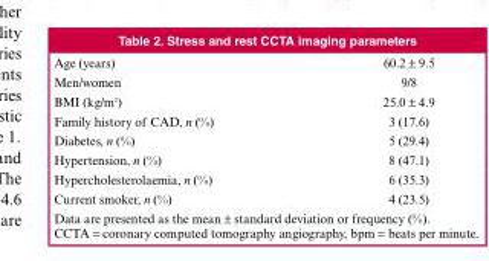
<table><tbody><tr><td>Age (years)</td><td>60.2 ± 9.5</td></tr><tr><td>Men/women</td><td>9/8</td></tr><tr><td>BMI (kg/m2)</td><td>25.0 ± 4.9</td></tr><tr><td>Family history of CAD, n (%)</td><td>3 (17.6)</td></tr><tr><td>Diabetes, n (%)</td><td>5 (29.4)</td></tr><tr><td>Hypertension, n (%)</td><td>8 (47.1)</td></tr><tr><td>Hypercholesterolaemia, n (%)</td><td>6 (35.3)</td></tr><tr><td>Current smoker, n (%)</td><td>4 (23.5)</td></tr></tbody></table>